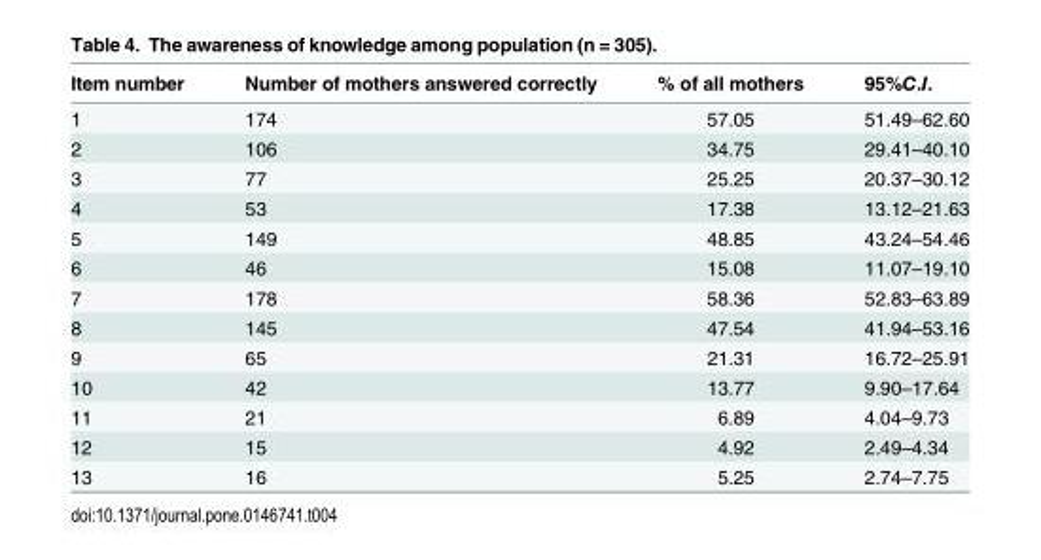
<table><thead><tr><td>Item number</td><td>Number of mothers answered correctly</td><td>% of all mothers</td><td>95%C.I.</td></tr></thead><tbody><tr><td>1</td><td>174</td><td>57.05</td><td>51.49–62.60</td></tr><tr><td>2</td><td>106</td><td>34.75</td><td>29.41–40.10</td></tr><tr><td>3</td><td>77</td><td>25.25</td><td>20.37–30.12</td></tr><tr><td>4</td><td>53</td><td>17.38</td><td>13.12–21.63</td></tr><tr><td>5</td><td>149</td><td>48.85</td><td>43.24–54.46</td></tr><tr><td>6</td><td>46</td><td>15.08</td><td>11.07–19.10</td></tr><tr><td>7</td><td>178</td><td>58.36</td><td>52.83–63.89</td></tr><tr><td>8</td><td>145</td><td>47.54</td><td>41.94–53.16</td></tr><tr><td>9</td><td>65</td><td>21.31</td><td>16.72–25.91</td></tr><tr><td>10</td><td>42</td><td>13.77</td><td>9.90–17.64</td></tr><tr><td>11</td><td>21</td><td>6.89</td><td>4.04–9.73</td></tr><tr><td>12</td><td>15</td><td>4.92</td><td>2.49–4.34</td></tr><tr><td>13</td><td>16</td><td>5.25</td><td>2.74–7.75</td></tr></tbody></table>